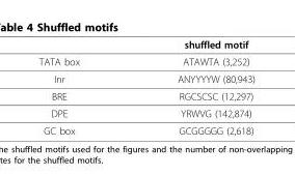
<table><thead><tr><td></td><td>shuffled motif</td></tr></thead><tbody><tr><td>TATA box</td><td>ATAWTA (3,252)</td></tr><tr><td>Inr</td><td>ANYYYYW (80,943)</td></tr><tr><td>BRE</td><td>RGCSCSC (12,297)</td></tr><tr><td>DPE</td><td>YRWVG (142,874)</td></tr><tr><td>GC box</td><td>GCGGGGG (2,618)</td></tr></tbody></table>